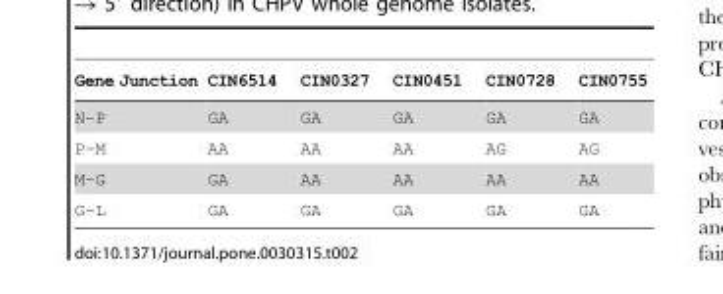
<table><thead><tr><td>Gene Junction</td><td>CIN6514</td><td>CIN0327</td><td>CIN0451</td><td>CIN0728</td><td>CIN0755</td></tr></thead><tbody><tr><td>N–P</td><td>GA</td><td>GA</td><td>GA</td><td>GA</td><td>GA</td></tr><tr><td>P–M</td><td>AA</td><td>AA</td><td>AA</td><td>AG</td><td>AG</td></tr><tr><td>M–G</td><td>GA</td><td>AA</td><td>AA</td><td>AA</td><td>AA</td></tr><tr><td>G–L</td><td>GA</td><td>GA</td><td>GA</td><td>GA</td><td>GA</td></tr></tbody></table>